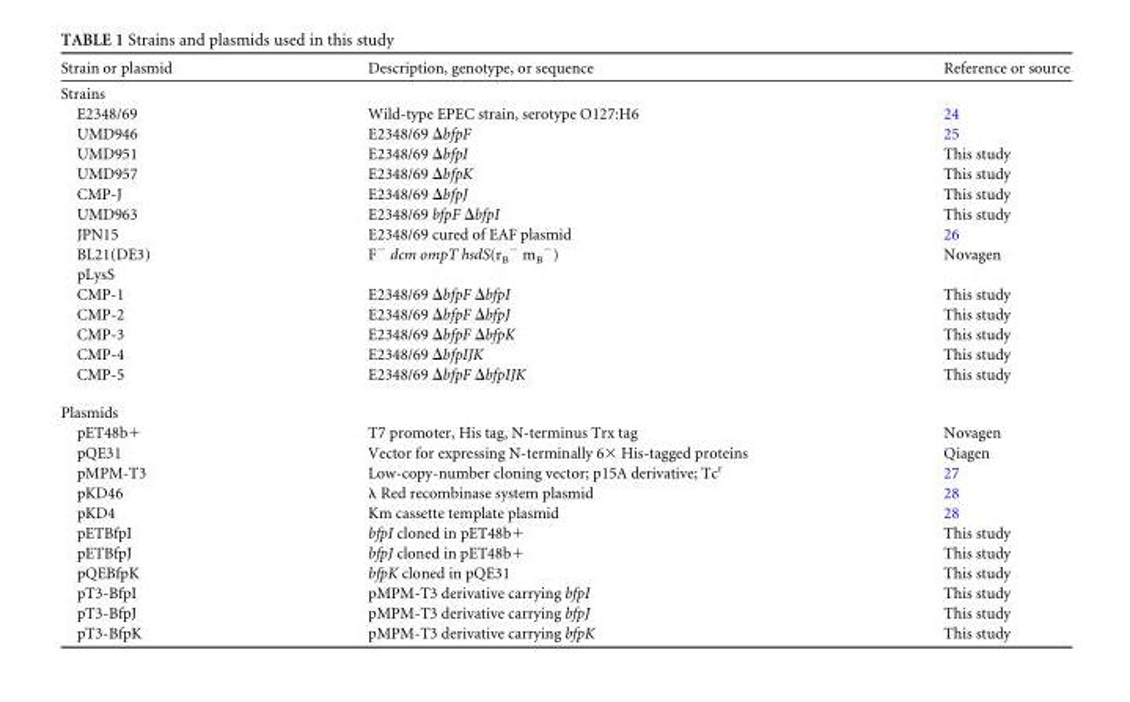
<table><thead><tr><td>Strain or plasmid</td><td>Description, genotype, or sequence</td><td>Reference or source</td></tr></thead><tbody><tr><td colspan="3">Strains</td></tr><tr><td>E2348/69</td><td>Wild-type EPEC strain, serotype O127:H6</td><td>24</td></tr><tr><td>UMD946</td><td>E2348/69 ΔbfpF</td><td>25</td></tr><tr><td>UMD951</td><td>E2348/69 ΔbfpI</td><td>This study</td></tr><tr><td>UMD957</td><td>E2348/69 ΔbfpK</td><td>This study</td></tr><tr><td>CMP-J</td><td>E2348/69 ΔbfpJ</td><td>This study</td></tr><tr><td>UMD963</td><td>E2348/69 bfpF ΔbfpI</td><td>This study</td></tr><tr><td>JPN15</td><td>E2348/69 cured of EAF plasmid</td><td>26</td></tr><tr><td>BL21(DE3) pLysS</td><td>F<sup>−</sup> dcm ompT hsdS(r<sub>B</sub> <sup>−</sup> m<sub>B</sub> <sup>−</sup>)</td><td>Novagen</td></tr><tr><td>CMP-1</td><td>E2348/69 ΔbfpF ΔbfpI</td><td>This study</td></tr><tr><td>CMP-2</td><td>E2348/69 ΔbfpF ΔbfpJ</td><td>This study</td></tr><tr><td>CMP-3</td><td>E2348/69 ΔbfpF ΔbfpK</td><td>This study</td></tr><tr><td>CMP-4</td><td>E2348/69 ΔbfpIJK</td><td>This study</td></tr><tr><td>CMP-5</td><td>E2348/69 ΔbfpF ΔbfpIJK</td><td>This study</td></tr><tr><td colspan="3">Plasmids</td></tr><tr><td>pET48b+</td><td>T7 promoter, His tag, N-terminus Trx tag</td><td>Novagen</td></tr><tr><td>pQE31</td><td>Vector for expressing N-terminally 6× His-tagged proteins</td><td>Qiagen</td></tr><tr><td>pMPM-T3</td><td>Low-copy-number cloning vector; p15A derivative; Tc<sup>r</sup></td><td>27</td></tr><tr><td>pKD46</td><td>λ Red recombinase system plasmid</td><td>28</td></tr><tr><td>pKD4</td><td>Km cassette template plasmid</td><td>28</td></tr><tr><td>pETBfpI</td><td>bfpI cloned in pET48b+</td><td>This study</td></tr><tr><td>pETBfpJ</td><td>bfpJ cloned in pET48b+</td><td>This study</td></tr><tr><td>pQEBfpK</td><td>bfpK cloned in pQE31</td><td>This study</td></tr><tr><td>pT3-BfpI</td><td>pMPM-T3 derivative carrying bfpI</td><td>This study</td></tr><tr><td>pT3-BfpJ</td><td>pMPM-T3 derivative carrying bfpJ</td><td>This study</td></tr><tr><td>pT3-BfpK</td><td>pMPM-T3 derivative carrying bfpK</td><td>This study</td></tr></tbody></table>